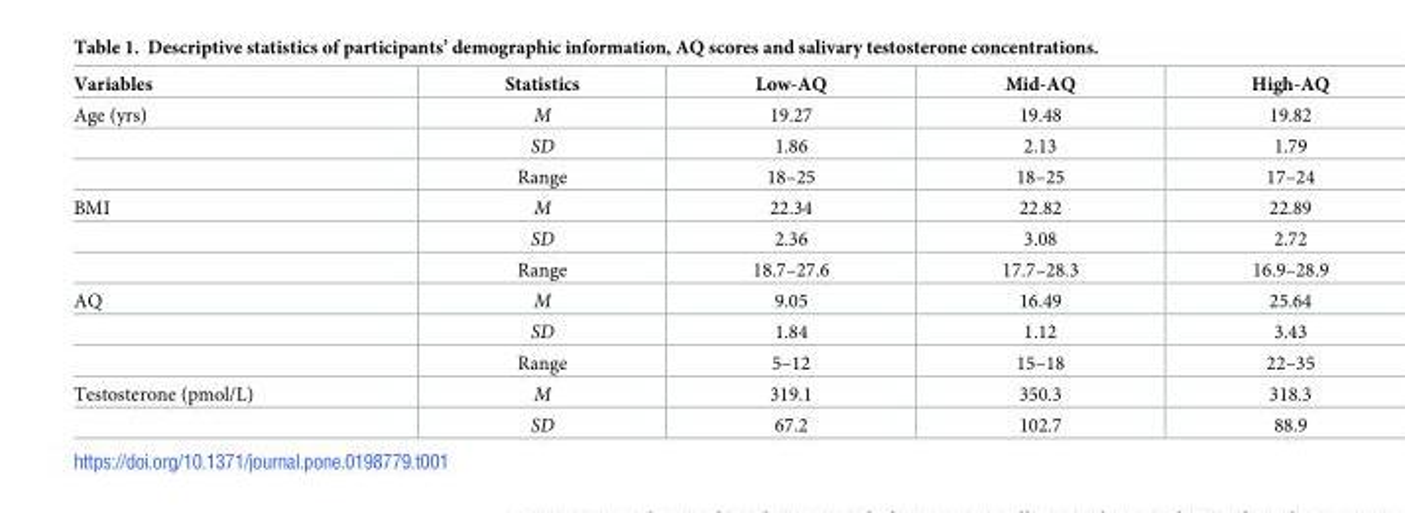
<table><thead><tr><td>Variables</td><td>Statistics</td><td>Low-AQ</td><td>Mid-AQ</td><td>High-AQ</td></tr></thead><tbody><tr><td rowspan="3">Age (yrs)</td><td>M</td><td>19.27</td><td>19.48</td><td>19.82</td></tr><tr><td>SD</td><td>1.86</td><td>2.13</td><td>1.79</td></tr><tr><td>Range</td><td>18–25</td><td>18–25</td><td>17–24</td></tr><tr><td rowspan="3">BMI</td><td>M</td><td>22.34</td><td>22.82</td><td>22.89</td></tr><tr><td>SD</td><td>2.36</td><td>3.08</td><td>2.72</td></tr><tr><td>Range</td><td>18.7–27.6</td><td>17.7–28.3</td><td>16.9–28.9</td></tr><tr><td rowspan="3">AQ</td><td>M</td><td>9.05</td><td>16.49</td><td>25.64</td></tr><tr><td>SD</td><td>1.84</td><td>1.12</td><td>3.43</td></tr><tr><td>Range</td><td>5–12</td><td>15–18</td><td>22–35</td></tr><tr><td rowspan="2">Testosterone (pmol/L)</td><td>M</td><td>319.1</td><td>350.3</td><td>318.3</td></tr><tr><td>SD</td><td>67.2</td><td>102.7</td><td>88.9</td></tr></tbody></table>